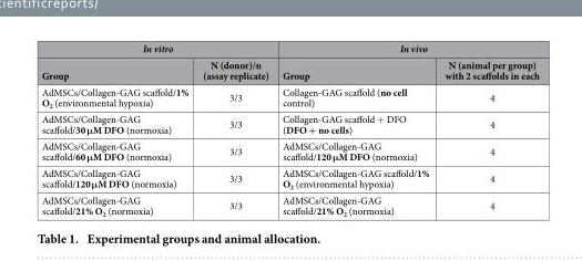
<table><thead><tr><td colspan="2">In vitro</td><td colspan="2">In vivo</td></tr><tr><td>Group</td><td>N (donor)/n (assay replicate)</td><td>Group</td><td>N (animal per group) with 2 scaffolds in each</td></tr></thead><tbody><tr><td>AdMSCs/Collagen-GAG scaffold/1% O<sub>2</sub> (environmental hypoxia)</td><td>3/3</td><td>Collagen-GAG scaffold (no cell control)</td><td>4</td></tr><tr><td>AdMSCs/Collagen-GAG scaffold/30 μM DFO (normoxia)</td><td>3/3</td><td>Collagen-GAG scaffold + DFO (DFO + no cells)</td><td>4</td></tr><tr><td>AdMSCs/Collagen-GAG scaffold/60 μM DFO (normoxia)</td><td>3/3</td><td>AdMSCs/Collagen-GAG scaffold/120 μM DFO (normoxia)</td><td>4</td></tr><tr><td>AdMSCs/Collagen-GAG scaffold/120 μM DFO (normoxia)</td><td>3/3</td><td>AdMSCs/Collagen-GAG scaffold/1% O<sub>2</sub> (environmental hypoxia)</td><td>4</td></tr><tr><td>AdMSCs/Collagen-GAG scaffold/21% O<sub>2</sub> (normoxia)</td><td>3/3</td><td>AdMSCs/Collagen-GAG scaffold/21% O<sub>2</sub> (normoxia)</td><td>4</td></tr></tbody></table>